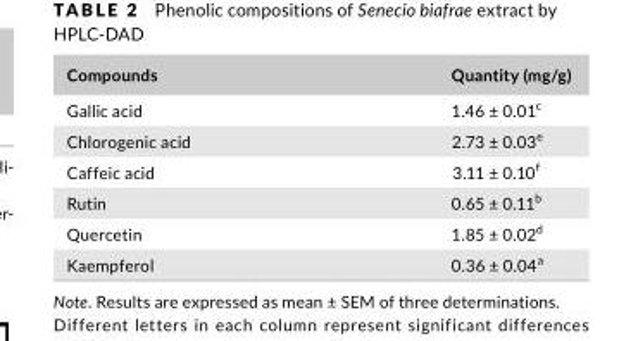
<table><thead><tr><td>Compounds</td><td>Quantity (mg/g)</td></tr></thead><tbody><tr><td>Gallic acid</td><td>1.46 ± 0.01<sup>c</sup></td></tr><tr><td>Chlorogenic acid</td><td>2.73 ± 0.03<sup>e</sup></td></tr><tr><td>Caffeic acid</td><td>3.11 ± 0.10<sup>f</sup></td></tr><tr><td>Rutin</td><td>0.65 ± 0.11<sup>b</sup></td></tr><tr><td>Quercetin</td><td>1.85 ± 0.02<sup>d</sup></td></tr><tr><td>Kaempferol</td><td>0.36 ± 0.04<sup>a</sup></td></tr></tbody></table>